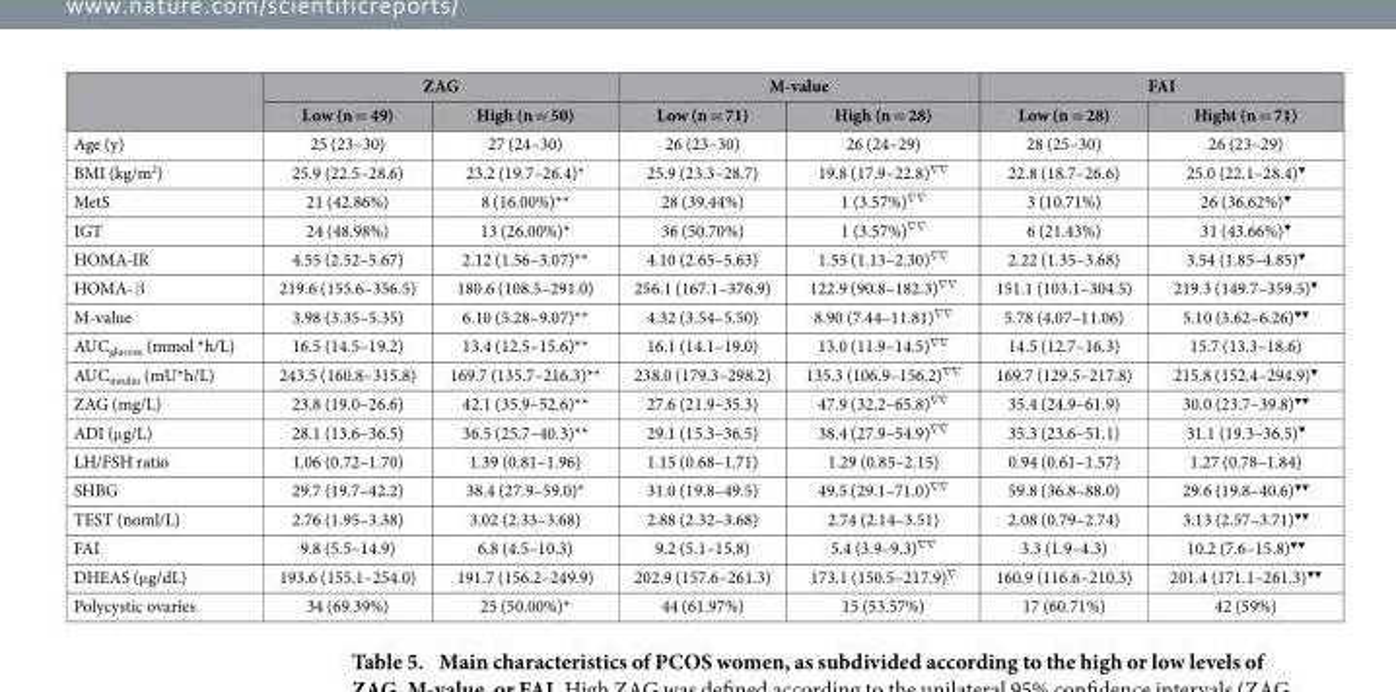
<table><thead><tr><td rowspan="2"></td><td colspan="2">ZAG</td><td colspan="2">M-value</td><td colspan="2">FAI</td></tr><tr><td>Low (n = 49)</td><td>High (n = 50)</td><td>Low (n = 71)</td><td>High (n = 28)</td><td>Low (n = 28)</td><td>Hight (n = 71)</td></tr></thead><tbody><tr><td>Age (y)</td><td>25 (23–30)</td><td>27 (24–30)</td><td>26 (23–30)</td><td>26 (24–29)</td><td>28 (25–30)</td><td>26 (23–29)</td></tr><tr><td>BMI (kg/m<sup>2</sup>)</td><td>25.9 (22.5–28.6)</td><td>23.2 (19.7–26.4)*</td><td>25.9 (23.3–28.7)</td><td>19.8 (17.9–22.8)<sup>∇∇</sup></td><td>22.8 (18.7–26.6)</td><td>25.0 (22.1–28.4)<sup>▾</sup></td></tr><tr><td>MetS</td><td>21 (42.86%)</td><td>8 (16.00%)**</td><td>28 (39.44%)</td><td>1 (3.57%)<sup>∇∇</sup></td><td>3 (10.71%)</td><td>26 (36.62%)<sup>▾</sup></td></tr><tr><td>IGT</td><td>24 (48.98%)</td><td>13 (26.00%)*</td><td>36 (50.70%)</td><td>1 (3.57%)<sup>∇∇</sup></td><td>6 (21.43%)</td><td>31 (43.66%)<sup>▾</sup></td></tr><tr><td>HOMA-IR</td><td>4.55 (2.52–5.67)</td><td>2.12 (1.56–3.07)**</td><td>4.10 (2.65–5.63)</td><td>1.55 (1.13–2.30)<sup>∇∇</sup></td><td>2.22 (1.35–3.68)</td><td>3.54 (1.85–4.85)<sup>▾</sup></td></tr><tr><td>HOMA- β</td><td>219.6 (155.6–356.5)</td><td>180.6 (108.5–291.0)</td><td>256.1 (167.1–376.9)</td><td>122.9 (90.8–182.3)<sup>∇∇</sup></td><td>151.1 (103.1–304.5)</td><td>219.3 (149.7–359.5)<sup>▾</sup></td></tr><tr><td>M-value</td><td>3.98 (3.35–5.35)</td><td>6.10 (5.28–9.07)**</td><td>4.32 (3.54–5.50)</td><td>8.90 (7.44–11.81)<sup>∇∇</sup></td><td>5.78 (4.07–11.06)</td><td>5.10 (3.62–6.26)<sup>▾▾</sup></td></tr><tr><td>AUC<sub>glucose</sub> (mmol *h/L)</td><td>16.5 (14.5–19.2)</td><td>13.4 (12.5–15.6)**</td><td>16.1 (14.1–19.0)</td><td>13.0 (11.9–14.5)<sup>∇∇</sup></td><td>14.5 (12.7–16.3)</td><td>15.7 (13.3–18.6)</td></tr><tr><td>AUC<sub>insulin</sub> (mU*h/L)</td><td>243.5 (160.8–315.8)</td><td>169.7 (135.7–216.3)**</td><td>238.0 (179.3–298.2)</td><td>135.3 (106.9–156.2)<sup>∇∇</sup></td><td>169.7 (129.5–217.8)</td><td>215.8 (152.4–294.9)<sup>▾</sup></td></tr><tr><td>ZAG (mg/L)</td><td>23.8 (19.0–26.6)</td><td>42.1 (35.9–52.6)**</td><td>27.6 (21.9–35.3)</td><td>47.9 (32.2–65.8)<sup>∇∇</sup></td><td>35.4 (24.9–61.9)</td><td>30.0 (23.7–39.8)<sup>▾▾</sup></td></tr><tr><td>ADI (μ g/L)</td><td>28.1 (13.6–36.5)</td><td>36.5 (25.7–40.3)**</td><td>29.1 (15.3–36.5)</td><td>38.4 (27.9–54.9)<sup>∇∇</sup></td><td>35.3 (23.6–51.1)</td><td>31.1 (19.3–36.5)<sup>▾</sup></td></tr><tr><td>LH/FSH ratio</td><td>1.06 (0.72–1.70)</td><td>1.39 (0.81–1.96)</td><td>1.15 (0.68–1.71)</td><td>1.29 (0.85–2.15)</td><td>0.94 (0.61–1.57)</td><td>1.27 (0.78–1.84)</td></tr><tr><td>SHBG</td><td>29.7 (19.7–42.2)</td><td>38.4 (27.9–59.0)*</td><td>31.0 (19.8–49.5)</td><td>49.5 (29.1–71.0)<sup>∇∇</sup></td><td>59.8 (36.8–88.0)</td><td>29.6 (19.8–40.6)<sup>▾▾</sup></td></tr><tr><td>TEST (noml/L)</td><td>2.76 (1.95–3.38)</td><td>3.02 (2.33–3.68)</td><td>2.88 (2.32–3.68)</td><td>2.74 (2.14–3.51)</td><td>2.08 (0.79–2.74)</td><td>3.13 (2.57–3.71)<sup>▾▾</sup></td></tr><tr><td>FAI</td><td>9.8 (5.5–14.9)</td><td>6.8 (4.5–10.3)</td><td>9.2 (5.1–15.8)</td><td>5.4 (3.9–9.3)<sup>∇∇</sup></td><td>3.3 (1.9–4.3)</td><td>10.2 (7.6–15.8)<sup>▾▾</sup></td></tr><tr><td>DHEAS (μ g/dL)</td><td>193.6 (155.1–254.0)</td><td>191.7 (156.2–249.9)</td><td>202.9 (157.6–261.3)</td><td>173.1 (150.5–217.9)<sup>∇</sup></td><td>160.9 (116.6–210.3)</td><td>201.4 (171.1–261.3)<sup>▾▾</sup></td></tr><tr><td>Polycystic ovaries</td><td>34 (69.39%)</td><td>25 (50.00%)*</td><td>44 (61.97%)</td><td>15 (53.57%)</td><td>17 (60.71%)</td><td>42 (59%)</td></tr></tbody></table>